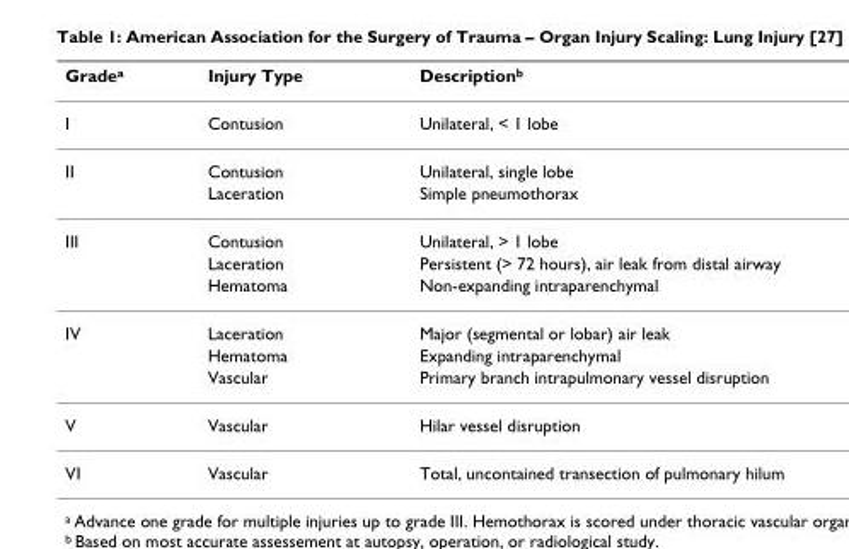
<table><thead><tr><td>Grade<sup>a</sup></td><td>Injury Type</td><td>Description<sup>b</sup></td></tr></thead><tbody><tr><td>I</td><td>Contusion</td><td>Unilateral, &lt; 1 lobe</td></tr><tr><td rowspan="2">II</td><td>Contusion</td><td>Unilateral, single lobe</td></tr><tr><td>Laceration</td><td>Simple pneumothorax</td></tr><tr><td rowspan="3">III</td><td>Contusion</td><td>Unilateral, &gt; 1 lobe</td></tr><tr><td>Laceration</td><td>Persistent (&gt; 72 hours), air leak from distal airway</td></tr><tr><td>Hematoma</td><td>Non-expanding intraparenchymal</td></tr><tr><td rowspan="3">IV</td><td>Laceration</td><td>Major (segmental or lobar) air leak</td></tr><tr><td>Hematoma</td><td>Expanding intraparenchymal</td></tr><tr><td>Vascular</td><td>Primary branch intrapulmonary vessel disruption</td></tr><tr><td>V</td><td>Vascular</td><td>Hilar vessel disruption</td></tr><tr><td>VI</td><td>Vascular</td><td>Total, uncontained transection of pulmonary hilum</td></tr></tbody></table>